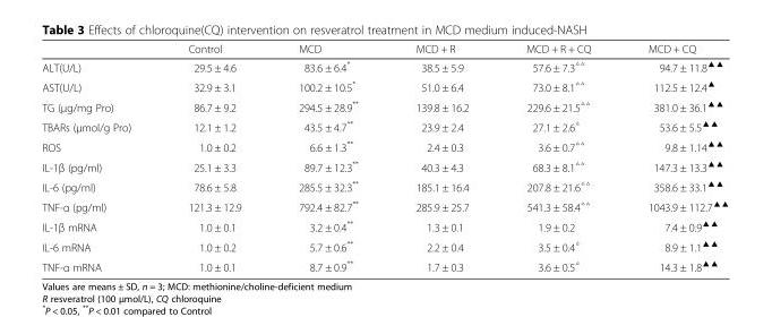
<table><thead><tr><td></td><td>Control</td><td>MCD</td><td>MCD + R</td><td>MCD + R + CQ</td><td>MCD + CQ</td></tr></thead><tbody><tr><td>ALT(U/L)</td><td>29.5 ± 4.6</td><td>83.6 ± 6.4*</td><td>38.5 ± 5.9</td><td>57.6 ± 7.3<sup>△△</sup></td><td>94.7 ± 11.8<sup>▲▲</sup></td></tr><tr><td>AST(U/L)</td><td>32.9 ± 3.1</td><td>100.2 ± 10.5*</td><td>51.0 ± 6.4</td><td>73.0 ± 8.1<sup>△△</sup></td><td>112.5 ± 12.4<sup>▲</sup></td></tr><tr><td>TG (μg/mg Pro)</td><td>86.7 ± 9.2</td><td>294.5 ± 28.9**</td><td>139.8 ± 16.2</td><td>229.6 ± 21.5<sup>△△</sup></td><td>381.0 ± 36.1<sup>▲▲</sup></td></tr><tr><td>TBARs (μmol/g Pro)</td><td>12.1 ± 1.2</td><td>43.5 ± 4.7**</td><td>23.9 ± 2.4</td><td>27.1 ± 2.6<sup>△</sup></td><td>53.6 ± 5.5<sup>▲▲</sup></td></tr><tr><td>ROS</td><td>1.0 ± 0.2</td><td>6.6 ± 1.3**</td><td>2.4 ± 0.3</td><td>3.6 ± 0.7<sup>△△</sup></td><td>9.8 ± 1.14<sup>▲▲</sup></td></tr><tr><td>IL-1β (pg/ml)</td><td>25.1 ± 3.3</td><td>89.7 ± 12.3**</td><td>40.3 ± 4.3</td><td>68.3 ± 8.1<sup>△△</sup></td><td>147.3 ± 13.3<sup>▲▲</sup></td></tr><tr><td>IL-6 (pg/ml)</td><td>78.6 ± 5.8</td><td>285.5 ± 32.3**</td><td>185.1 ± 16.4</td><td>207.8 ± 21.6<sup>△△</sup></td><td>358.6 ± 33.1<sup>▲▲</sup></td></tr><tr><td>TNF-α (pg/ml)</td><td>121.3 ± 12.9</td><td>792.4 ± 82.7**</td><td>285.9 ± 25.7</td><td>541.3 ± 58.4<sup>△△</sup></td><td>1043.9 ± 112.7<sup>▲▲</sup></td></tr><tr><td>IL-1β mRNA</td><td>1.0 ± 0.1</td><td>3.2 ± 0.4**</td><td>1.3 ± 0.1</td><td>1.9 ± 0.2</td><td>7.4 ± 0.9<sup>▲▲</sup></td></tr><tr><td>IL-6 mRNA</td><td>1.0 ± 0.2</td><td>5.7 ± 0.6**</td><td>2.2 ± 0.4</td><td>3.5 ± 0.4<sup>△</sup></td><td>8.9 ± 1.1<sup>▲▲</sup></td></tr><tr><td>TNF-α mRNA</td><td>1.0 ± 0.1</td><td>8.7 ± 0.9**</td><td>1.7 ± 0.3</td><td>3.6 ± 0.5<sup>△</sup></td><td>14.3 ± 1.8<sup>▲▲</sup></td></tr></tbody></table>